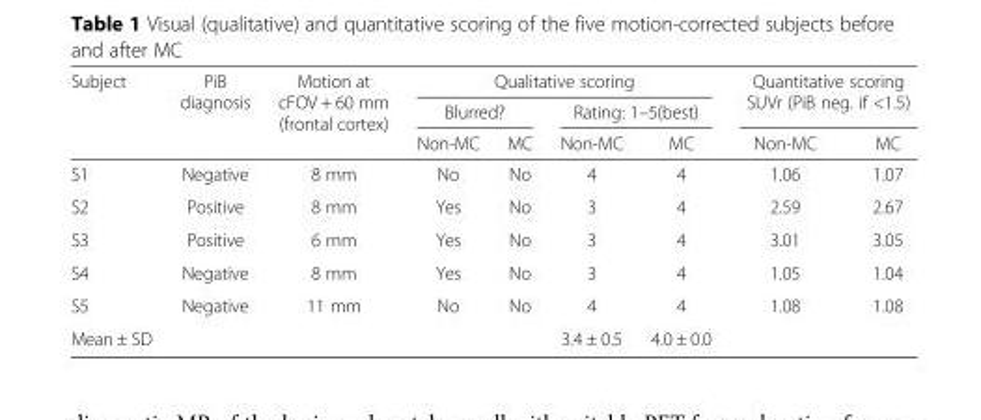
<table><thead><tr><td rowspan="3">Subject</td><td rowspan="3">PiB diagnosis</td><td rowspan="3">Motion at cFOV + 60 mm (frontal cortex)</td><td colspan="4">Qualitative scoring</td><td rowspan="2" colspan="2">Quantitative scoring SUVr (PiB neg. if &lt;1.5)</td></tr><tr><td colspan="2">Blurred?</td><td colspan="2">Rating: 1–5(best)</td></tr><tr><td>Non-MC</td><td>MC</td><td>Non-MC</td><td>MC</td><td>Non-MC</td><td>MC</td></tr></thead><tbody><tr><td>S1</td><td>Negative</td><td>8 mm</td><td>No</td><td>No</td><td>4</td><td>4</td><td>1.06</td><td>1.07</td></tr><tr><td>S2</td><td>Positive</td><td>8 mm</td><td>Yes</td><td>No</td><td>3</td><td>4</td><td>2.59</td><td>2.67</td></tr><tr><td>S3</td><td>Positive</td><td>6 mm</td><td>Yes</td><td>No</td><td>3</td><td>4</td><td>3.01</td><td>3.05</td></tr><tr><td>S4</td><td>Negative</td><td>8 mm</td><td>Yes</td><td>No</td><td>3</td><td>4</td><td>1.05</td><td>1.04</td></tr><tr><td>S5</td><td>Negative</td><td>11 mm</td><td>No</td><td>No</td><td>4</td><td>4</td><td>1.08</td><td>1.08</td></tr><tr><td>Mean ± SD</td><td colspan="4"></td><td>3.4 ± 0.5</td><td>4.0 ± 0.0</td><td colspan="2"></td></tr></tbody></table>